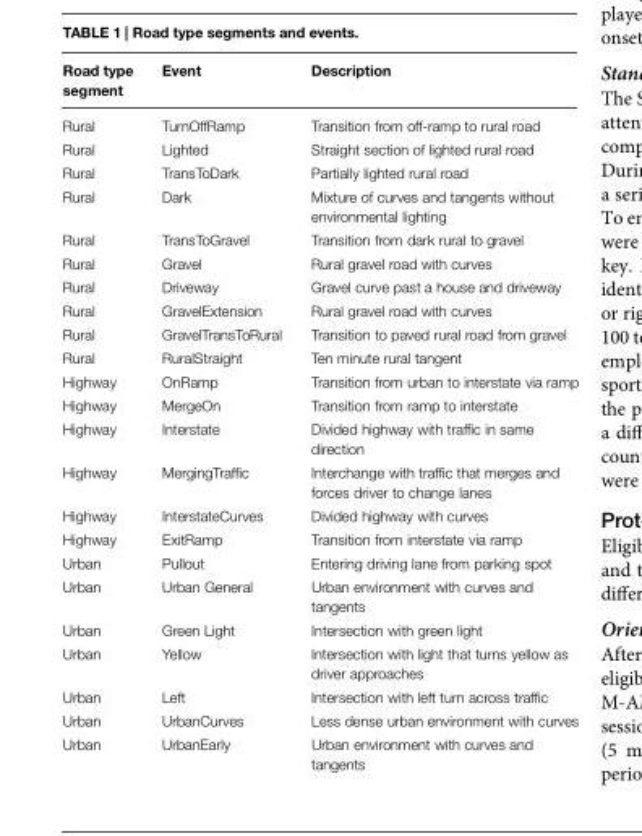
<table><thead><tr><td>Road type segment</td><td>Event</td><td>Description</td></tr></thead><tbody><tr><td>Rural</td><td>TurnOffRamp</td><td>Transition from off-ramp to rural road</td></tr><tr><td>Rural</td><td>Lighted</td><td>Straight section of lighted rural road</td></tr><tr><td>Rural</td><td>TransToDark</td><td>Partially lighted rural road</td></tr><tr><td>Rural</td><td>Dark</td><td>Mixture of curves and tangents without environmental lighting</td></tr><tr><td>Rural</td><td>TransToGravel</td><td>Transition from dark rural to gravel</td></tr><tr><td>Rural</td><td>Gravel</td><td>Rural gravel road with curves</td></tr><tr><td>Rural</td><td>Driveway</td><td>Gravel curve past a house and driveway</td></tr><tr><td>Rural</td><td>GravelExtension</td><td>Rural gravel road with curves</td></tr><tr><td>Rural</td><td>GravelTransToRural</td><td>Transition to paved rural road from gravel</td></tr><tr><td>Rural</td><td>RuralStraight</td><td>Ten minute rural tangent</td></tr><tr><td>Highway</td><td>OnRamp</td><td>Transition from urban to interstate via ramp</td></tr><tr><td>Highway</td><td>MergeOn</td><td>Transition from ramp to interstate</td></tr><tr><td>Highway</td><td>Interstate</td><td>Divided highway with traffic in same direction</td></tr><tr><td>Highway</td><td>MergingTraffic</td><td>Interchange with traffic that merges and forces driver to change lanes</td></tr><tr><td>Highway</td><td>InterstateCurves</td><td>Divided highway with curves</td></tr><tr><td>Highway</td><td>ExitRamp</td><td>Transition from interstate via ramp</td></tr><tr><td>Urban</td><td>Pullout</td><td>Entering driving lane from parking spot</td></tr><tr><td>Urban</td><td>Urban General</td><td>Urban environment with curves and tangents</td></tr><tr><td>Urban</td><td>Green Light</td><td>Intersection with green light</td></tr><tr><td>Urban</td><td>Yellow</td><td>Intersection with light that turns yellow as driver approaches</td></tr><tr><td>Urban</td><td>Left</td><td>Intersection with left turn across traffic</td></tr><tr><td>Urban</td><td>UrbanCurves</td><td>Less dense urban environment with curves</td></tr><tr><td>Urban</td><td>UrbanEarly</td><td>Urban environment with curves and tangents</td></tr></tbody></table>